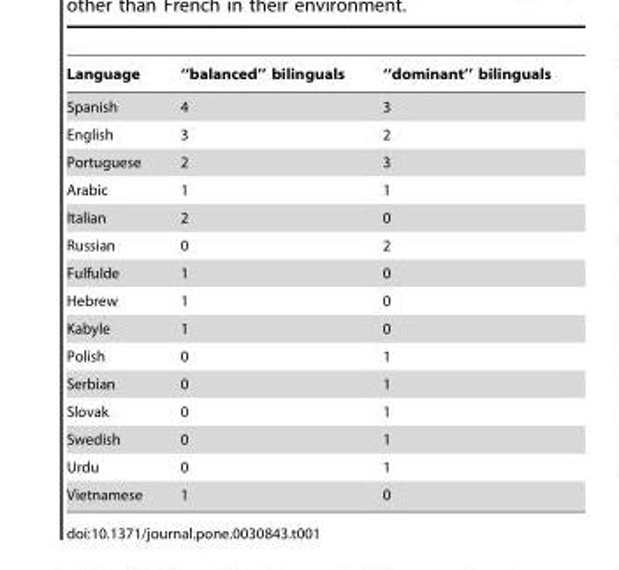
<table><thead><tr><td>Language</td><td>‘‘balanced’’ bilinguals</td><td>‘‘dominant’’ bilinguals</td></tr></thead><tbody><tr><td>Spanish</td><td>4</td><td>3</td></tr><tr><td>English</td><td>3</td><td>2</td></tr><tr><td>Portuguese</td><td>2</td><td>3</td></tr><tr><td>Arabic</td><td>1</td><td>1</td></tr><tr><td>Italian</td><td>2</td><td>0</td></tr><tr><td>Russian</td><td>0</td><td>2</td></tr><tr><td>Fulfulde</td><td>1</td><td>0</td></tr><tr><td>Hebrew</td><td>1</td><td>0</td></tr><tr><td>Kabyle</td><td>1</td><td>0</td></tr><tr><td>Polish</td><td>0</td><td>1</td></tr><tr><td>Serbian</td><td>0</td><td>1</td></tr><tr><td>Slovak</td><td>0</td><td>1</td></tr><tr><td>Swedish</td><td>0</td><td>1</td></tr><tr><td>Urdu</td><td>0</td><td>1</td></tr><tr><td>Vietnamese</td><td>1</td><td>0</td></tr></tbody></table>